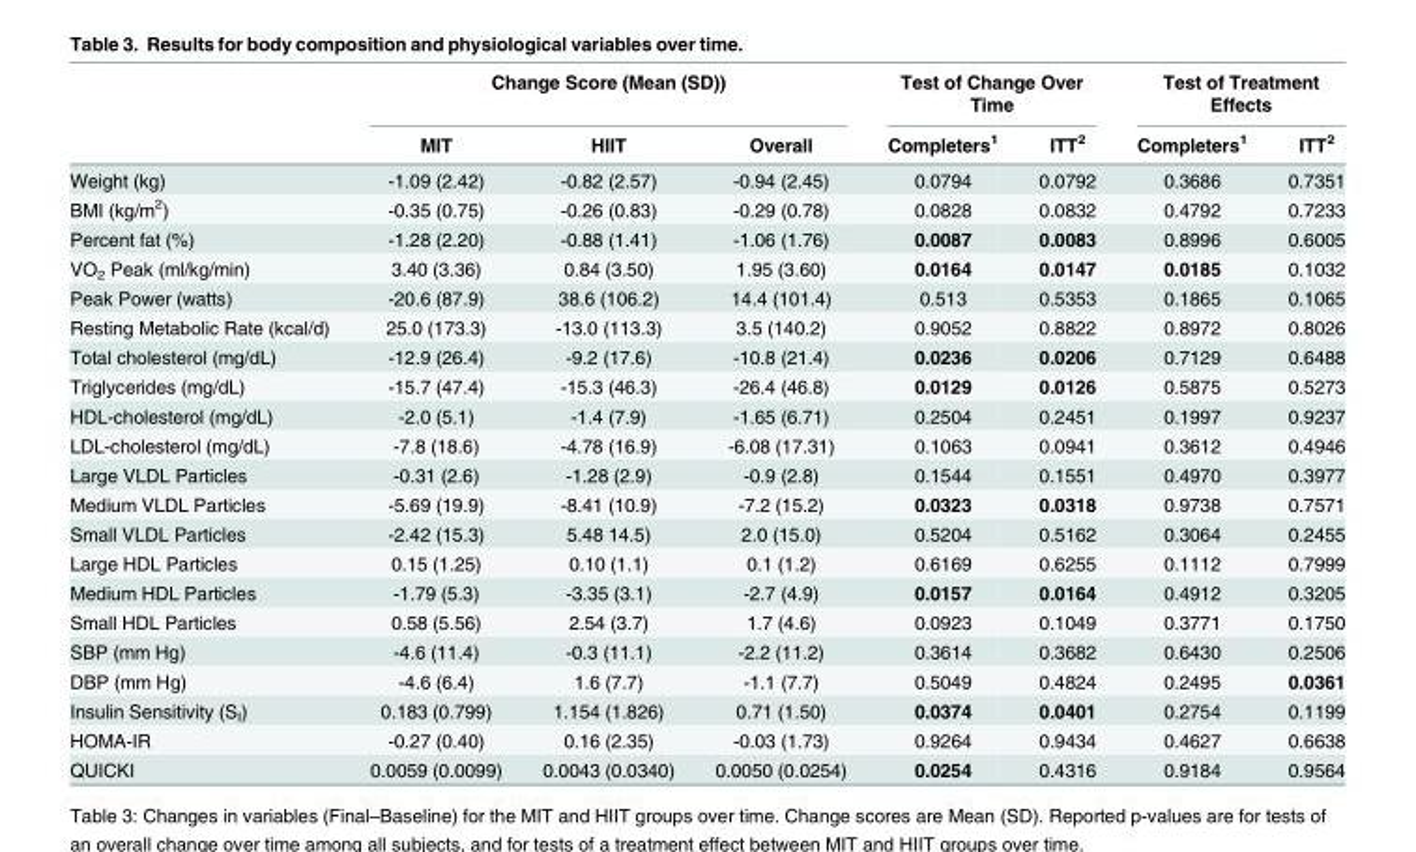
<table><thead><tr><td rowspan="2"></td><td colspan="3">Change Score (Mean (SD))</td><td colspan="2">Test of Change Over Time</td><td colspan="2">Test of Treatment Effects</td></tr><tr><td>MIT</td><td>HIIT</td><td>Overall</td><td>Completers<sup>1</sup></td><td>ITT<sup>2</sup></td><td>Completers<sup>1</sup></td><td>ITT<sup>2</sup></td></tr></thead><tbody><tr><td>Weight (kg)</td><td>-1.09 (2.42)</td><td>-0.82 (2.57)</td><td>-0.94 (2.45)</td><td>0.0794</td><td>0.0792</td><td>0.3686</td><td>0.7351</td></tr><tr><td>BMI (kg/m<sup>2</sup>)</td><td>-0.35 (0.75)</td><td>-0.26 (0.83)</td><td>-0.29 (0.78)</td><td>0.0828</td><td>0.0832</td><td>0.4792</td><td>0.7233</td></tr><tr><td>Percent fat (%)</td><td>-1.28 (2.20)</td><td>-0.88 (1.41)</td><td>-1.06 (1.76)</td><td>0.0087</td><td>0.0083</td><td>0.8996</td><td>0.6005</td></tr><tr><td>VO<sub>2</sub> Peak (ml/kg/min)</td><td>3.40 (3.36)</td><td>0.84 (3.50)</td><td>1.95 (3.60)</td><td>0.0164</td><td>0.0147</td><td>0.0185</td><td>0.1032</td></tr><tr><td>Peak Power (watts)</td><td>-20.6 (87.9)</td><td>38.6 (106.2)</td><td>14.4 (101.4)</td><td>0.513</td><td>0.5353</td><td>0.1865</td><td>0.1065</td></tr><tr><td>Resting Metabolic Rate (kcal/d)</td><td>25.0 (173.3)</td><td>-13.0 (113.3)</td><td>3.5 (140.2)</td><td>0.9052</td><td>0.8822</td><td>0.8972</td><td>0.8026</td></tr><tr><td>Total cholesterol (mg/dL)</td><td>-12.9 (26.4)</td><td>-9.2 (17.6)</td><td>-10.8 (21.4)</td><td>0.0236</td><td>0.0206</td><td>0.7129</td><td>0.6488</td></tr><tr><td>Triglycerides (mg/dL)</td><td>-15.7 (47.4)</td><td>-15.3 (46.3)</td><td>-26.4 (46.8)</td><td>0.0129</td><td>0.0126</td><td>0.5875</td><td>0.5273</td></tr><tr><td>HDL-cholesterol (mg/dL)</td><td>-2.0 (5.1)</td><td>-1.4 (7.9)</td><td>-1.65 (6.71)</td><td>0.2504</td><td>0.2451</td><td>0.1997</td><td>0.9237</td></tr><tr><td>LDL-cholesterol (mg/dL)</td><td>-7.8 (18.6)</td><td>-4.78 (16.9)</td><td>-6.08 (17.31)</td><td>0.1063</td><td>0.0941</td><td>0.3612</td><td>0.4946</td></tr><tr><td>Large VLDL Particles</td><td>-0.31 (2.6)</td><td>-1.28 (2.9)</td><td>-0.9 (2.8)</td><td>0.1544</td><td>0.1551</td><td>0.4970</td><td>0.3977</td></tr><tr><td>Medium VLDL Particles</td><td>-5.69 (19.9)</td><td>-8.41 (10.9)</td><td>-7.2 (15.2)</td><td>0.0323</td><td>0.0318</td><td>0.9738</td><td>0.7571</td></tr><tr><td>Small VLDL Particles</td><td>-2.42 (15.3)</td><td>5.48 14.5)</td><td>2.0 (15.0)</td><td>0.5204</td><td>0.5162</td><td>0.3064</td><td>0.2455</td></tr><tr><td>Large HDL Particles</td><td>0.15 (1.25)</td><td>0.10 (1.1)</td><td>0.1 (1.2)</td><td>0.6169</td><td>0.6255</td><td>0.1112</td><td>0.7999</td></tr><tr><td>Medium HDL Particles</td><td>-1.79 (5.3)</td><td>-3.35 (3.1)</td><td>-2.7 (4.9)</td><td>0.0157</td><td>0.0164</td><td>0.4912</td><td>0.3205</td></tr><tr><td>Small HDL Particles</td><td>0.58 (5.56)</td><td>2.54 (3.7)</td><td>1.7 (4.6)</td><td>0.0923</td><td>0.1049</td><td>0.3771</td><td>0.1750</td></tr><tr><td>SBP (mm Hg)</td><td>-4.6 (11.4)</td><td>-0.3 (11.1)</td><td>-2.2 (11.2)</td><td>0.3614</td><td>0.3682</td><td>0.6430</td><td>0.2506</td></tr><tr><td>DBP (mm Hg)</td><td>-4.6 (6.4)</td><td>1.6 (7.7)</td><td>-1.1 (7.7)</td><td>0.5049</td><td>0.4824</td><td>0.2495</td><td>0.0361</td></tr><tr><td>Insulin Sensitivity (S<sub>I</sub>)</td><td>0.183 (0.799)</td><td>1.154 (1.826)</td><td>0.71 (1.50)</td><td>0.0374</td><td>0.0401</td><td>0.2754</td><td>0.1199</td></tr><tr><td>HOMA-IR</td><td>-0.27 (0.40)</td><td>0.16 (2.35)</td><td>-0.03 (1.73)</td><td>0.9264</td><td>0.9434</td><td>0.4627</td><td>0.6638</td></tr><tr><td>QUICKI</td><td>0.0059 (0.0099)</td><td>0.0043 (0.0340)</td><td>0.0050 (0.0254)</td><td>0.0254</td><td>0.4316</td><td>0.9184</td><td>0.9564</td></tr></tbody></table>